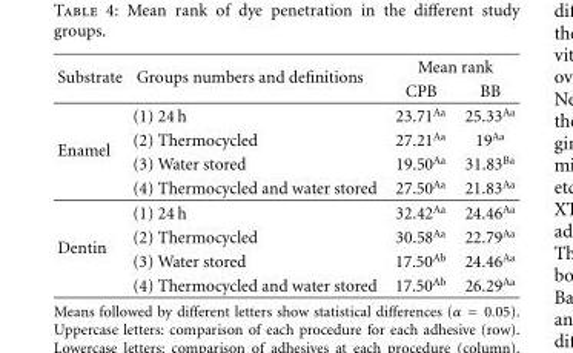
<table><thead><tr><td rowspan="2">Substrate</td><td rowspan="2">Groups numbers and definitions</td><td colspan="2">Mean rank</td></tr><tr><td>CPB</td><td>BB</td></tr></thead><tbody><tr><td rowspan="4">Enamel</td><td>(1) 24 h</td><td>23.71<sup>Aa</sup></td><td>25.33<sup>Aa</sup></td></tr><tr><td>(2) Thermocycled</td><td>27.21<sup>Aa</sup></td><td>19<sup>Aa</sup></td></tr><tr><td>(3) Water stored</td><td>19.50<sup>Aa</sup></td><td>31.83<sup>Ba</sup></td></tr><tr><td>(4) Thermocycled and water stored</td><td>27.50<sup>Aa</sup></td><td>21.83<sup>Aa</sup></td></tr><tr><td rowspan="4">Dentin</td><td>(1) 24 h</td><td>32.42<sup>Aa</sup></td><td>24.46<sup>Aa</sup></td></tr><tr><td>(2) Thermocycled</td><td>30.58<sup>Aa</sup></td><td>22.79<sup>Aa</sup></td></tr><tr><td>(3) Water stored</td><td>17.50<sup>Ab</sup></td><td>24.46<sup>Aa</sup></td></tr><tr><td>(4) Thermocycled and water stored</td><td>17.50<sup>Ab</sup></td><td>26.29<sup>Aa</sup></td></tr></tbody></table>